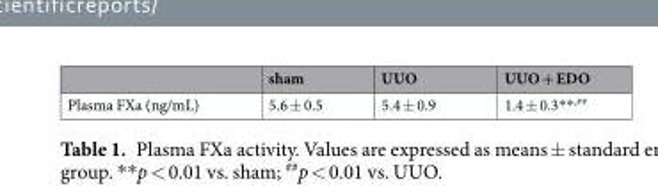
<table><thead><tr><td></td><td>sham</td><td>UUO</td><td>UUO + EDO</td></tr></thead><tbody><tr><td>Plasma FXa (ng/mL)</td><td>5.6 ± 0.5</td><td>5.4 ± 0.9</td><td>1.4 ± 0.3**<sup>,##</sup></td></tr></tbody></table>